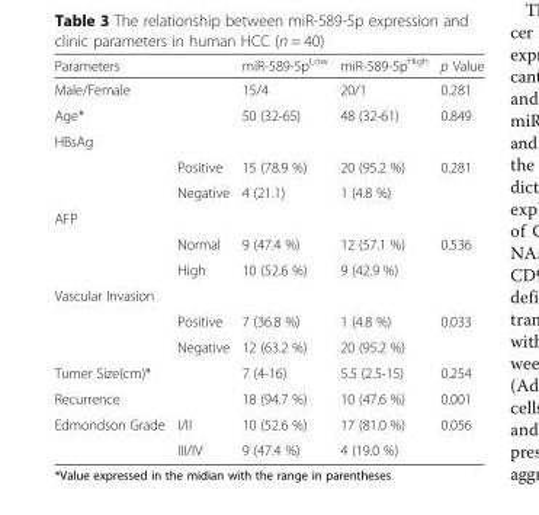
<table><thead><tr><td colspan="2">Parameters</td><td rowspan="2">miR-589-5p<sup>Low</sup> 15/4</td><td rowspan="2">miR-589-5p<sup>High</sup> 20/1</td><td rowspan="2">p Value 0.281</td></tr><tr><td>Male/Female</td><td></td></tr></thead><tbody><tr><td>Age*</td><td></td><td>50 (32-65)</td><td>48 (32-61)</td><td>0.849</td></tr><tr><td colspan="5">HBsAg</td></tr><tr><td></td><td>Positive</td><td>15 (78.9 %)</td><td>20 (95.2 %)</td><td rowspan="2">0.281</td></tr><tr><td></td><td>Negative</td><td>4 (21.1)</td><td>1 (4.8 %)</td></tr><tr><td colspan="5">AFP</td></tr><tr><td></td><td>Normal</td><td>9 (47.4 %)</td><td>12 (57.1 %)</td><td rowspan="2">0.536</td></tr><tr><td></td><td>High</td><td>10 (52.6 %)</td><td>9 (42.9 %)</td></tr><tr><td colspan="5">Vascular Invasion</td></tr><tr><td></td><td>Positive</td><td>7 (36.8 %)</td><td>1 (4.8 %)</td><td rowspan="2">0.033</td></tr><tr><td></td><td>Negative</td><td>12 (63.2 %)</td><td>20 (95.2 %)</td></tr><tr><td>Tumer Size(cm)*</td><td></td><td>7 (4-16)</td><td>5.5 (2.5-15)</td><td>0.254</td></tr><tr><td>Recurrence</td><td></td><td>18 (94.7 %)</td><td>10 (47.6 %)</td><td>0.001</td></tr><tr><td rowspan="2">Edmondson Grade</td><td>I/II</td><td>10 (52.6 %)</td><td>17 (81.0 %)</td><td rowspan="2">0.056</td></tr><tr><td>III/IV</td><td>9 (47.4 %)</td><td>4 (19.0 %)</td></tr></tbody></table>